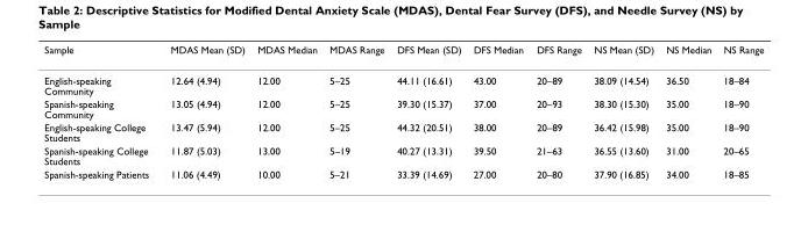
<table><thead><tr><td>Sample</td><td>MDAS Mean (SD)</td><td>MDAS Median</td><td>MDAS Range</td><td>DFS Mean (SD)</td><td>DFS Median</td><td>DFS Range</td><td>NS Mean (SD)</td><td>NS Median</td><td>NS Range</td></tr></thead><tbody><tr><td>English-speaking Community</td><td>12.64 (4.94)</td><td>12.00</td><td>5–25</td><td>44.11 (16.61)</td><td>43.00</td><td>20–89</td><td>38.09 (14.54)</td><td>36.50</td><td>18–84</td></tr><tr><td>Spanish-speaking Community</td><td>13.05 (4.94)</td><td>12.00</td><td>5–25</td><td>39.30 (15.37)</td><td>37.00</td><td>20–93</td><td>38.30 (15.30)</td><td>35.00</td><td>18–90</td></tr><tr><td>English-speaking College Students</td><td>13.47 (5.94)</td><td>12.00</td><td>5–25</td><td>44.32 (20.51)</td><td>38.00</td><td>20–89</td><td>36.42 (15.98)</td><td>35.00</td><td>18–90</td></tr><tr><td>Spanish-speaking College Students</td><td>11.87 (5.03)</td><td>13.00</td><td>5–19</td><td>40.27 (13.31)</td><td>39.50</td><td>21–63</td><td>36.55 (13.60)</td><td>31.00</td><td>20–65</td></tr><tr><td>Spanish-speaking Patients</td><td>11.06 (4.49)</td><td>10.00</td><td>5–21</td><td>33.39 (14.69)</td><td>27.00</td><td>20–80</td><td>37.90 (16.85)</td><td>34.00</td><td>18–85</td></tr></tbody></table>